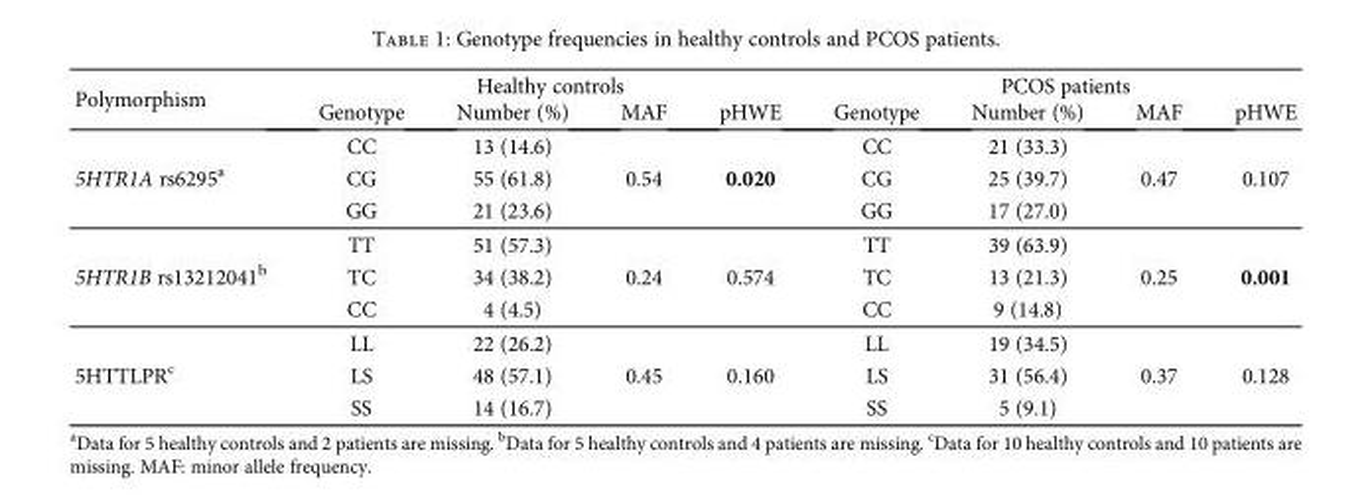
<table><thead><tr><td rowspan="2">Polymorphism</td><td colspan="4">Healthy controls</td><td colspan="4">PCOS patients</td></tr><tr><td>Genotype</td><td>Number (%)</td><td>MAF</td><td>pHWE</td><td>Genotype</td><td>Number (%)</td><td>MAF</td><td>pHWE</td></tr></thead><tbody><tr><td rowspan="3">5HTR1A rs6295<sup>a</sup></td><td>CC</td><td>13 (14.6)</td><td rowspan="3">0.54</td><td rowspan="3">0.020</td><td>CC</td><td>21 (33.3)</td><td rowspan="3">0.47</td><td rowspan="3">0.107</td></tr><tr><td>CG</td><td>55 (61.8)</td><td>CG</td><td>25 (39.7)</td></tr><tr><td>GG</td><td>21 (23.6)</td><td>GG</td><td>17 (27.0)</td></tr><tr><td rowspan="3">5HTR1B rs13212041<sup>b</sup></td><td>TT</td><td>51 (57.3)</td><td rowspan="3">0.24</td><td rowspan="3">0.574</td><td>TT</td><td>39 (63.9)</td><td rowspan="3">0.25</td><td rowspan="3">0.001</td></tr><tr><td>TC</td><td>34 (38.2)</td><td>TC</td><td>13 (21.3)</td></tr><tr><td>CC</td><td>4 (4.5)</td><td>CC</td><td>9 (14.8)</td></tr><tr><td rowspan="3">5HTTLPR<sup>c</sup></td><td>LL</td><td>22 (26.2)</td><td rowspan="3">0.45</td><td rowspan="3">0.160</td><td>LL</td><td>19 (34.5)</td><td rowspan="3">0.37</td><td rowspan="3">0.128</td></tr><tr><td>LS</td><td>48 (57.1)</td><td>LS</td><td>31 (56.4)</td></tr><tr><td>SS</td><td>14 (16.7)</td><td>SS</td><td>5 (9.1)</td></tr></tbody></table>